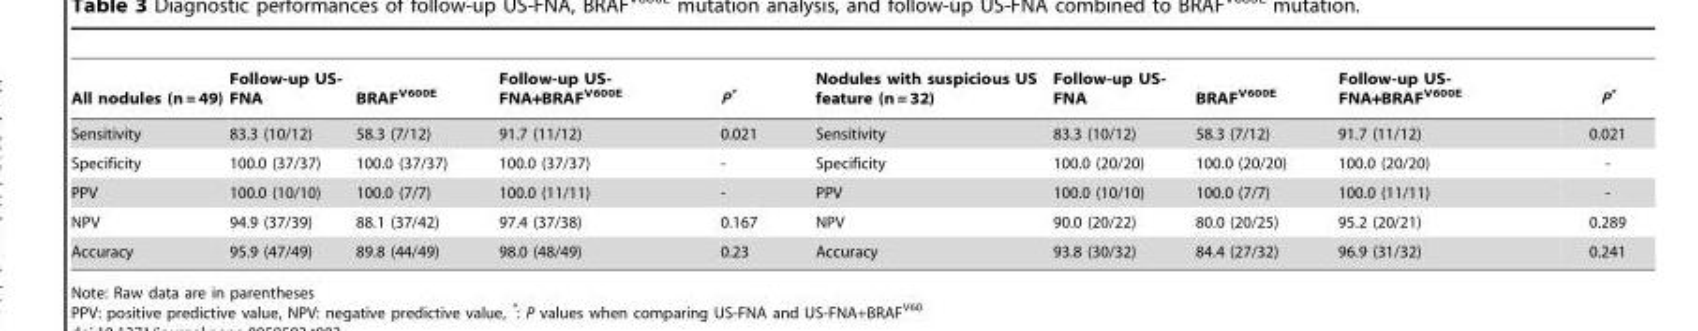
<table><thead><tr><td>All nodules (n = 49)</td><td>Follow-up US- FNA</td><td>BRAF<sup>V600E</sup></td><td>Follow-up US- FNA+BRAF<sup>V600E</sup></td><td>P*</td><td>Nodules with suspicious US feature (n = 32)</td><td>Follow-up US- FNA</td><td>BRAF<sup>V600E</sup></td><td>Follow-up US- FNA+BRAF<sup>V600E</sup></td><td>P*</td></tr></thead><tbody><tr><td>Sensitivity</td><td>83.3 (10/12)</td><td>58.3 (7/12)</td><td>91.7 (11/12)</td><td>0.021</td><td>Sensitivity</td><td>83.3 (10/12)</td><td>58.3 (7/12)</td><td>91.7 (11/12)</td><td>0.021</td></tr><tr><td>Specificity</td><td>100.0 (37/37)</td><td>100.0 (37/37)</td><td>100.0 (37/37)</td><td>-</td><td>Specificity</td><td>100.0 (20/20)</td><td>100.0 (20/20)</td><td>100.0 (20/20)</td><td>-</td></tr><tr><td>PPV</td><td>100.0 (10/10)</td><td>100.0 (7/7)</td><td>100.0 (11/11)</td><td>-</td><td>PPV</td><td>100.0 (10/10)</td><td>100.0 (7/7)</td><td>100.0 (11/11)</td><td>-</td></tr><tr><td>NPV</td><td>94.9 (37/39)</td><td>88.1 (37/42)</td><td>97.4 (37/38)</td><td>0.167</td><td>NPV</td><td>90.0 (20/22)</td><td>80.0 (20/25)</td><td>95.2 (20/21)</td><td>0.289</td></tr><tr><td>Accuracy</td><td>95.9 (47/49)</td><td>89.8 (44/49)</td><td>98.0 (48/49)</td><td>0.23</td><td>Accuracy</td><td>93.8 (30/32)</td><td>84.4 (27/32)</td><td>96.9 (31/32)</td><td>0.241</td></tr></tbody></table>